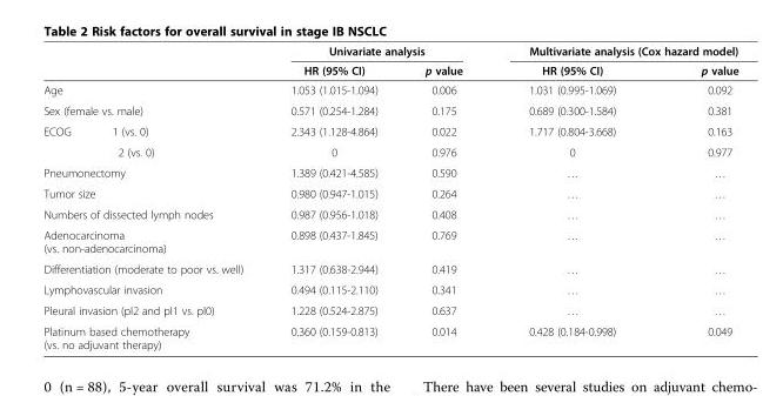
<table><thead><tr><td rowspan="2"></td><td colspan="2">Univariate analysis</td><td colspan="2">Multivariate analysis (Cox hazard model)</td></tr><tr><td>HR (95% CI)</td><td>p value</td><td>HR (95% CI)</td><td>p value</td></tr></thead><tbody><tr><td>Age</td><td>1.053 (1.015-1.094)</td><td>0.006</td><td>1.031 (0.995-1.069)</td><td>0.092</td></tr><tr><td>Sex (female vs. male)</td><td>0.571 (0.254-1.284)</td><td>0.175</td><td>0.689 (0.300-1.584)</td><td>0.381</td></tr><tr><td>ECOG 1 (vs. 0)</td><td>2.343 (1.128-4.864)</td><td>0.022</td><td>1.717 (0.804-3.668)</td><td>0.163</td></tr><tr><td>2 (vs. 0)</td><td>0</td><td>0.976</td><td>0</td><td>0.977</td></tr><tr><td>Pneumonectomy</td><td>1.389 (0.421-4.585)</td><td>0.590</td><td>…</td><td>…</td></tr><tr><td>Tumor size</td><td>0.980 (0.947-1.015)</td><td>0.264</td><td>…</td><td>…</td></tr><tr><td>Numbers of dissected lymph nodes</td><td>0.987 (0.956-1.018)</td><td>0.408</td><td>…</td><td>…</td></tr><tr><td>Adenocarcinoma (vs. non-adenocarcinoma)</td><td>0.898 (0.437-1.845)</td><td>0.769</td><td>…</td><td>…</td></tr><tr><td>Differentiation (moderate to poor vs. well)</td><td>1.317 (0.638-2.944)</td><td>0.419</td><td>…</td><td>…</td></tr><tr><td>Lymphovascular invasion</td><td>0.494 (0.115-2.110)</td><td>0.341</td><td>…</td><td>…</td></tr><tr><td>Pleural invasion (pl2 and pl1 vs. pl0)</td><td>1.228 (0.524-2.875)</td><td>0.637</td><td>…</td><td>…</td></tr><tr><td>Platinum based chemotherapy (vs. no adjuvant therapy)</td><td>0.360 (0.159-0.813)</td><td>0.014</td><td>0.428 (0.184-0.998)</td><td>0.049</td></tr></tbody></table>